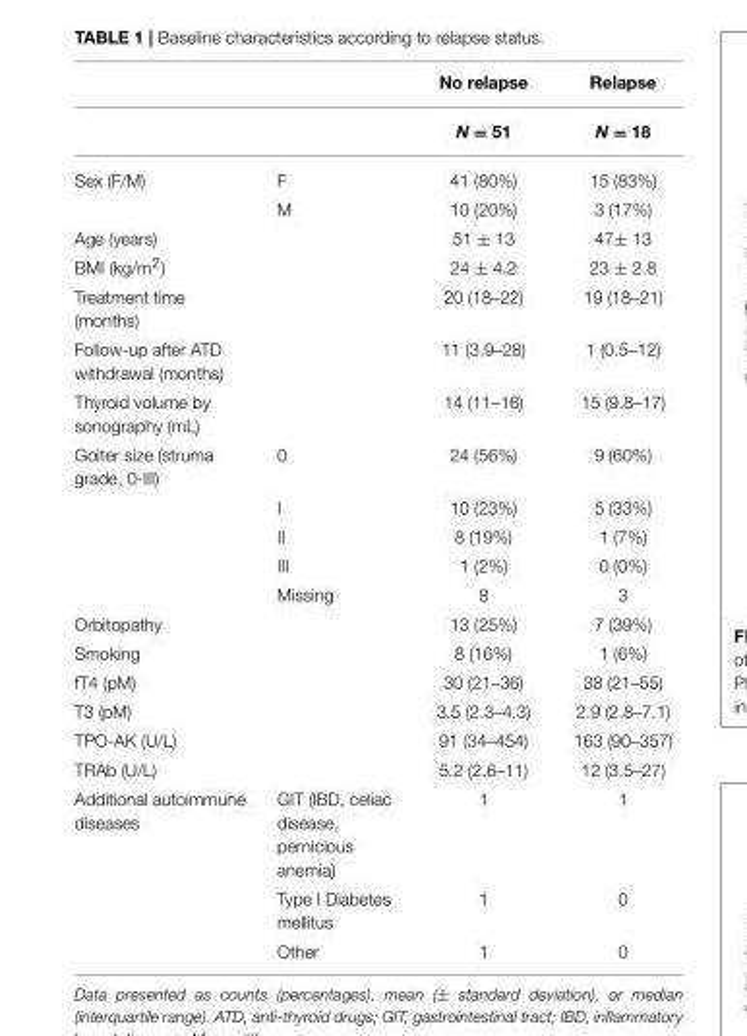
<table><thead><tr><td rowspan="2"></td><td rowspan="2"></td><td rowspan="2">No relapse N = 51</td><td rowspan="2">Relapse N = 18</td></tr><tr></tr></thead><tbody><tr><td rowspan="2">Sex (F/M)</td><td>F</td><td>41 (80%)</td><td>15 (83%)</td></tr><tr><td>M</td><td>10 (20%)</td><td>3 (17%)</td></tr><tr><td>Age (years)</td><td></td><td>51 ± 13</td><td>47± 13</td></tr><tr><td>BMI (kg/m<sup>2</sup>)</td><td></td><td>24 ± 4.2</td><td>23 ± 2.8</td></tr><tr><td>Treatment time (months)</td><td></td><td>20 (18–22)</td><td>19 (18–21)</td></tr><tr><td>Follow-up after ATD withdrawal (months)</td><td></td><td>11 (3.9–28)</td><td>1 (0.5–12)</td></tr><tr><td>Thyroid volume by sonography (mL)</td><td></td><td>14 (11–16)</td><td>15 (9.8–17)</td></tr><tr><td rowspan="5">Goiter size (struma grade, 0-III)</td><td>0</td><td>24 (56%)</td><td>9 (60%)</td></tr><tr><td>I</td><td>10 (23%)</td><td>5 (33%)</td></tr><tr><td>II</td><td>8 (19%)</td><td>1 (7%)</td></tr><tr><td>III</td><td>1 (2%)</td><td>0 (0%)</td></tr><tr><td>Missing</td><td>8</td><td>3</td></tr><tr><td>Orbitopathy</td><td></td><td>13 (25%)</td><td>7 (39%)</td></tr><tr><td>Smoking</td><td></td><td>8 (16%)</td><td>1 (6%)</td></tr><tr><td>fT4 (pM)</td><td></td><td>30 (21–36)</td><td>38 (21–55)</td></tr><tr><td>T3 (pM)</td><td></td><td>3.5 (2.3–4.3)</td><td>2.9 (2.8–7.1)</td></tr><tr><td>TPO-AK (U/L)</td><td></td><td>91 (34–454)</td><td>163 (90–357)</td></tr><tr><td>TRAb (U/L)</td><td></td><td>5.2 (2.6–11)</td><td>12 (3.5–27)</td></tr><tr><td rowspan="3">Additional autoimmune diseases</td><td>GIT (IBD, celiac disease, pernicious anemia)</td><td>1</td><td>1</td></tr><tr><td>Type I Diabetes mellitus</td><td>1</td><td>0</td></tr><tr><td>Other</td><td>1</td><td>0</td></tr></tbody></table>